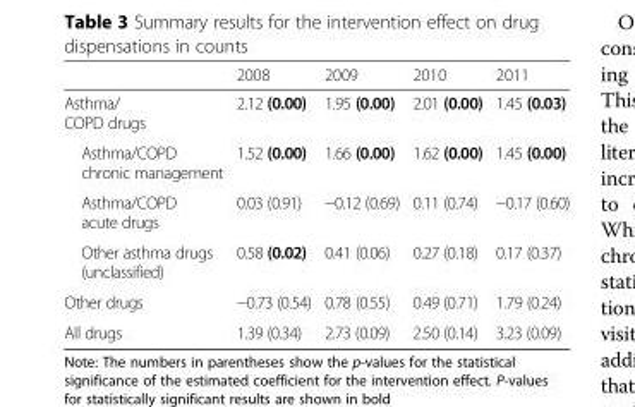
<table><thead><tr><td></td><td>2008</td><td>2009</td><td>2010</td><td>2011</td></tr></thead><tbody><tr><td>Asthma/ COPD drugs</td><td>2.12 (0.00)</td><td>1.95 (0.00)</td><td>2.01 (0.00)</td><td>1.45 (0.03)</td></tr><tr><td>Asthma/COPD chronic management</td><td>1.52 (0.00)</td><td>1.66 (0.00)</td><td>1.62 (0.00)</td><td>1.45 (0.00)</td></tr><tr><td>Asthma/COPD acute drugs</td><td>0.03 (0.91)</td><td>−0.12 (0.69)</td><td>0.11 (0.74)</td><td>−0.17 (0.60)</td></tr><tr><td>Other asthma drugs (unclassified)</td><td>0.58 (0.02)</td><td>0.41 (0.06)</td><td>0.27 (0.18)</td><td>0.17 (0.37)</td></tr><tr><td>Other drugs</td><td>−0.73 (0.54)</td><td>0.78 (0.55)</td><td>0.49 (0.71)</td><td>1.79 (0.24)</td></tr><tr><td>All drugs</td><td>1.39 (0.34)</td><td>2.73 (0.09)</td><td>2.50 (0.14)</td><td>3.23 (0.09)</td></tr></tbody></table>